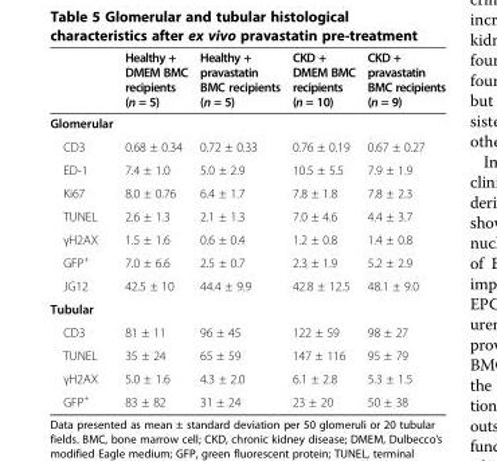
<table><thead><tr><td></td><td>Healthy + DMEM BMC recipients (n = 5)</td><td>Healthy + pravastatin BMC recipients (n = 5)</td><td>CKD + DMEM BMC recipients (n = 10)</td><td>CKD + pravastatin BMC recipients (n = 9)</td></tr></thead><tbody><tr><td colspan="5">Glomerular</td></tr><tr><td>CD3</td><td>0.68 ± 0.34</td><td>0.72 ± 0.33</td><td>0.76 ± 0.19</td><td>0.67 ± 0.27</td></tr><tr><td>ED-1</td><td>7.4 ± 1.0</td><td>5.0 ± 2.9</td><td>10.5 ± 5.5</td><td>7.9 ± 1.9</td></tr><tr><td>Ki67</td><td>8.0 ± 0.76</td><td>6.4 ± 1.7</td><td>7.8 ± 1.8</td><td>7.8 ± 2.3</td></tr><tr><td>TUNEL</td><td>2.6 ± 1.3</td><td>2.1 ± 1.3</td><td>7.0 ± 4.6</td><td>4.4 ± 3.7</td></tr><tr><td>γH2AX</td><td>1.5 ± 1.6</td><td>0.6 ± 0.4</td><td>1.2 ± 0.8</td><td>1.4 ± 0.8</td></tr><tr><td>GFP<sup>+</sup></td><td>7.0 ± 6.6</td><td>2.5 ± 0.7</td><td>2.3 ± 1.9</td><td>5.2 ± 2.9</td></tr><tr><td>JG12</td><td>42.5 ± 10</td><td>44.4 ± 9.9</td><td>42.8 ± 12.5</td><td>48.1 ± 9.0</td></tr><tr><td colspan="5">Tubular</td></tr><tr><td>CD3</td><td>81 ± 11</td><td>96 ± 45</td><td>122 ± 59</td><td>98 ± 27</td></tr><tr><td>TUNEL</td><td>35 ± 24</td><td>65 ± 59</td><td>147 ± 116</td><td>95 ± 79</td></tr><tr><td>γH2AX</td><td>5.0 ± 1.6</td><td>4.3 ± 2.0</td><td>6.1 ± 2.8</td><td>5.3 ± 1.5</td></tr><tr><td>GFP<sup>+</sup></td><td>83 ± 82</td><td>31 ± 24</td><td>23 ± 20</td><td>50 ± 38</td></tr></tbody></table>